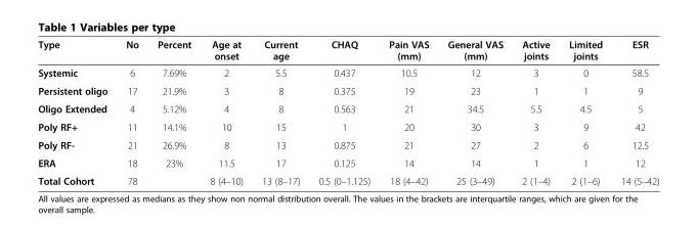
<table><thead><tr><td>Type</td><td>No</td><td>Percent</td><td>Age at onset</td><td>Current age</td><td>CHAQ</td><td>Pain VAS (mm)</td><td>General VAS (mm)</td><td>Active joints</td><td>Limited joints</td><td>ESR</td></tr></thead><tbody><tr><td>Systemic</td><td>6</td><td>7.69%</td><td>2</td><td>5.5</td><td>0.437</td><td>10.5</td><td>12</td><td>3</td><td>0</td><td>58.5</td></tr><tr><td>Persistent oligo</td><td>17</td><td>21.9%</td><td>3</td><td>8</td><td>0.375</td><td>19</td><td>23</td><td>1</td><td>1</td><td>9</td></tr><tr><td>Oligo Extended</td><td>4</td><td>5.12%</td><td>4</td><td>8</td><td>0.563</td><td>21</td><td>34.5</td><td>5.5</td><td>4.5</td><td>5</td></tr><tr><td>Poly RF+</td><td>11</td><td>14.1%</td><td>10</td><td>15</td><td>1</td><td>20</td><td>30</td><td>3</td><td>9</td><td>42</td></tr><tr><td>Poly RF-</td><td>21</td><td>26.9%</td><td>8</td><td>13</td><td>0.875</td><td>21</td><td>27</td><td>2</td><td>6</td><td>12.5</td></tr><tr><td>ERA</td><td>18</td><td>23%</td><td>11.5</td><td>17</td><td>0.125</td><td>14</td><td>14</td><td>1</td><td>1</td><td>12</td></tr><tr><td>Total Cohort</td><td>78</td><td></td><td>8 (4–10)</td><td>13 (8–17)</td><td>0.5 (0–1.125)</td><td>18 (4–42)</td><td>25 (3–49)</td><td>2 (1–4)</td><td>2 (1–6)</td><td>14 (5–42)</td></tr></tbody></table>